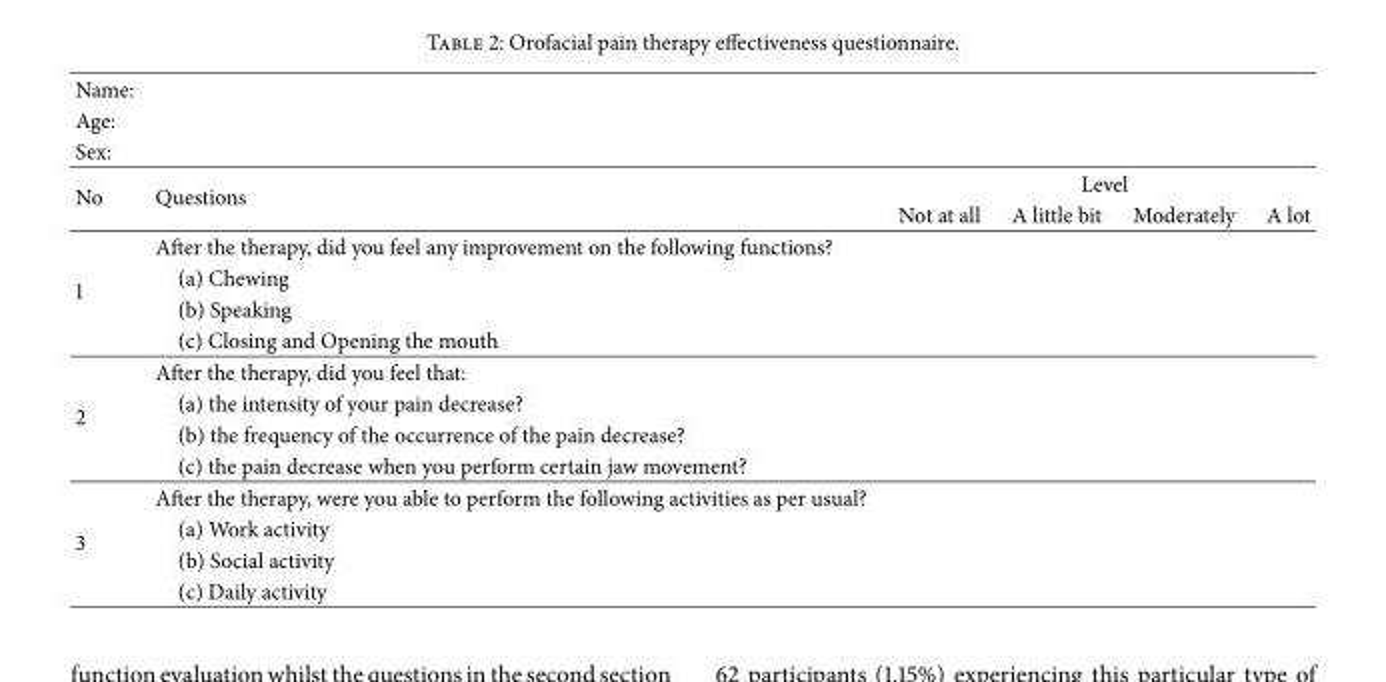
<table><tbody><tr><td colspan="6">Name:</td></tr><tr><td colspan="6">Age:</td></tr><tr><td colspan="6">Sex:</td></tr><tr><td rowspan="2">No</td><td rowspan="2">Questions</td><td colspan="4">Level</td></tr><tr><td>Not at all</td><td>A little bit</td><td>Moderately</td><td>A lot</td></tr><tr><td rowspan="4">1</td><td>After the therapy, did you feel any improvement on the following functions?</td><td></td><td></td><td></td><td></td></tr><tr><td>(a) Chewing</td><td></td><td></td><td></td><td></td></tr><tr><td>(b) Speaking</td><td></td><td></td><td></td><td></td></tr><tr><td>(c) Closing and Opening the mouth</td><td></td><td></td><td></td><td></td></tr><tr><td rowspan="4">2</td><td>After the therapy, did you feel that:</td><td></td><td></td><td></td><td></td></tr><tr><td>(a) the intensity of your pain decrease?</td><td></td><td></td><td></td><td></td></tr><tr><td>(b) the frequency of the occurrence of the pain decrease?</td><td></td><td></td><td></td><td></td></tr><tr><td>(c) the pain decrease when you perform certain jaw movement?</td><td></td><td></td><td></td><td></td></tr><tr><td rowspan="4">3</td><td>After the therapy, were you able to perform the following activities as per usual?</td><td></td><td></td><td></td><td></td></tr><tr><td>(a) Work activity</td><td></td><td></td><td></td><td></td></tr><tr><td>(b) Social activity</td><td></td><td></td><td></td><td></td></tr><tr><td>(c) Daily activity</td><td></td><td></td><td></td><td></td></tr></tbody></table>